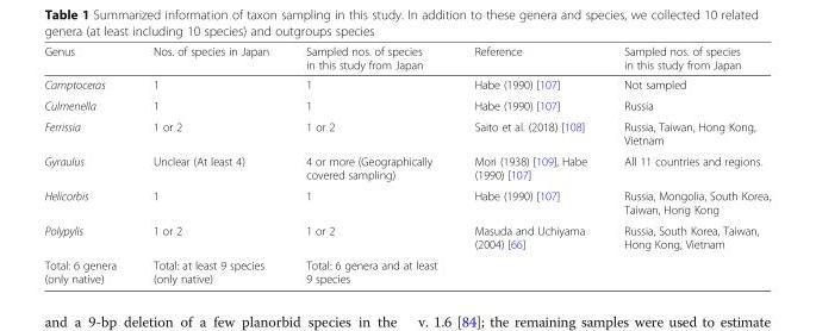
<table><thead><tr><td>Genus</td><td>Nos. of species in Japan</td><td>Sampled nos. of species in this study from Japan</td><td>Reference</td><td>Sampled nos. of species in this study from Japan</td></tr></thead><tbody><tr><td>Camptoceras</td><td>1</td><td>1</td><td>Habe (1990) [107]</td><td>Not sampled</td></tr><tr><td>Culmenella</td><td>1</td><td>1</td><td>Habe (1990) [107]</td><td>Russia</td></tr><tr><td>Ferrissia</td><td>1 or 2</td><td>1 or 2</td><td>Saito et al. (2018) [108]</td><td>Russia, Taiwan, Hong Kong, Vietnam</td></tr><tr><td>Gyraulus</td><td>Unclear (At least 4)</td><td>4 or more (Geographically covered sampling)</td><td>Mori (1938) [109], Habe (1990) [107]</td><td>All 11 countries and regions.</td></tr><tr><td>Helicorbis</td><td>1</td><td>1</td><td>Habe (1990) [107]</td><td>Russia, Mongolia, South Korea, Taiwan, Hong Kong</td></tr><tr><td>Polypylis</td><td>1 or 2</td><td>1 or 2</td><td>Masuda and Uchiyama (2004) [66]</td><td>Russia, South Korea, Taiwan, Hong Kong, Vietnam</td></tr><tr><td>Total: 6 genera (only native)</td><td>Total: at least 9 species (only native)</td><td>Total: 6 genera and at least 9 species</td><td></td><td></td></tr></tbody></table>